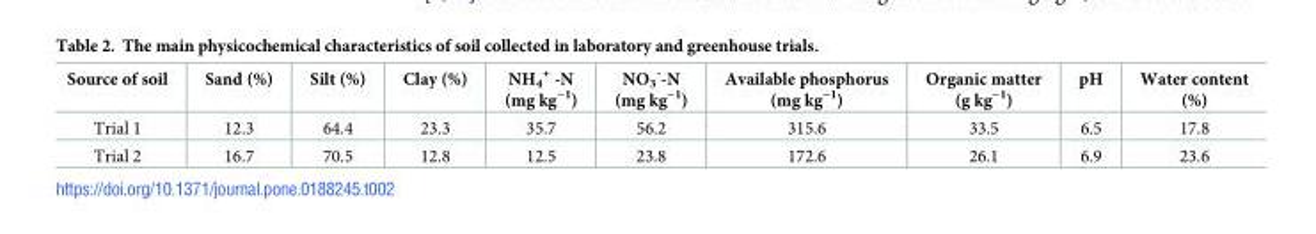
<table><thead><tr><td>Source of soil</td><td>Sand (%)</td><td>Silt (%)</td><td>Clay (%)</td><td>NH<sub>4</sub> <sup>+</sup> -N (mg kg<sup>−1</sup>)</td><td>NO<sub>3</sub> <sup>-</sup>-N (mg kg<sup>−1</sup>)</td><td>Available phosphorus (mg kg<sup>−1</sup>)</td><td>Organic matter (g kg<sup>−1</sup>)</td><td>pH</td><td>Water content (%)</td></tr></thead><tbody><tr><td>Trial 1</td><td>12.3</td><td>64.4</td><td>23.3</td><td>35.7</td><td>56.2</td><td>315.6</td><td>33.5</td><td>6.5</td><td>17.8</td></tr><tr><td>Trial 2</td><td>16.7</td><td>70.5</td><td>12.8</td><td>12.5</td><td>23.8</td><td>172.6</td><td>26.1</td><td>6.9</td><td>23.6</td></tr></tbody></table>